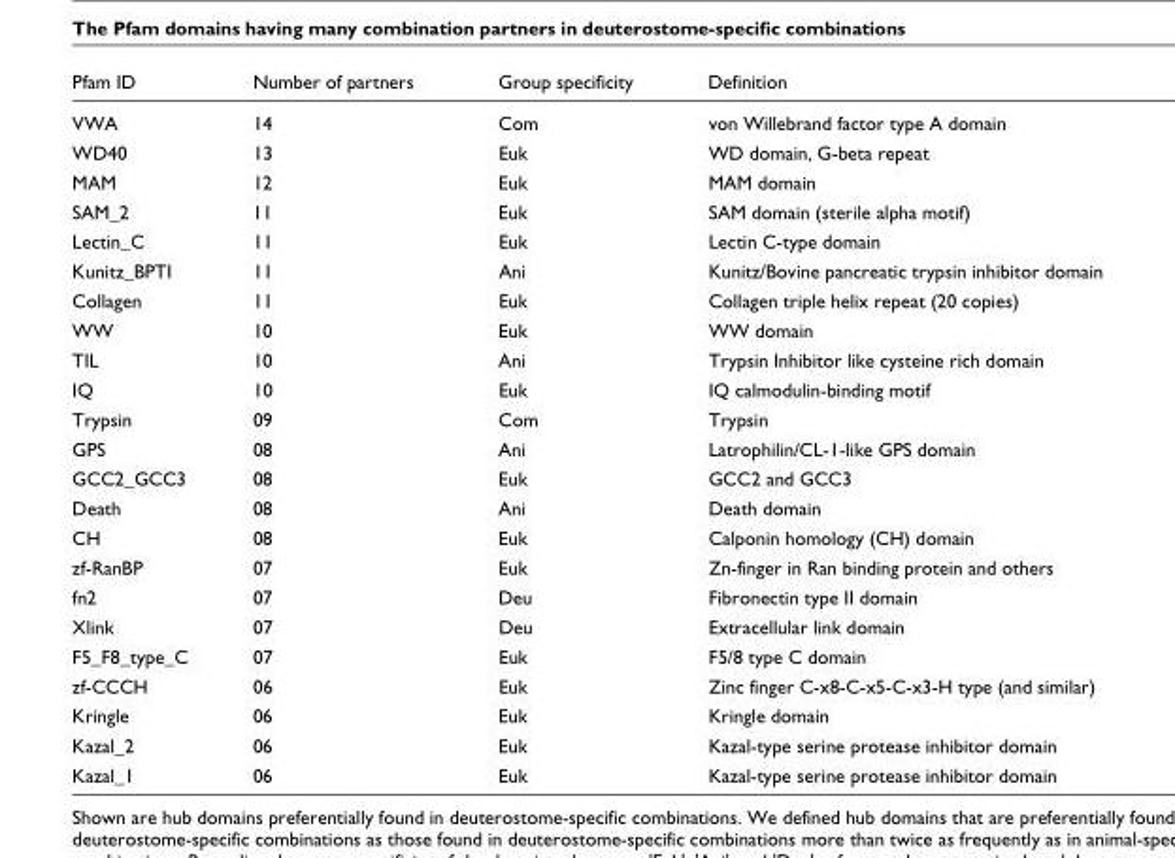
<table><thead><tr><td>Pfam ID</td><td>Number of partners</td><td>Group specificity</td><td>Definition</td></tr></thead><tbody><tr><td>VWA</td><td>14</td><td>Com</td><td>von Willebrand factor type A domain</td></tr><tr><td>WD40</td><td>13</td><td>Euk</td><td>WD domain, G-beta repeat</td></tr><tr><td>MAM</td><td>12</td><td>Euk</td><td>MAM domain</td></tr><tr><td>SAM_2</td><td>11</td><td>Euk</td><td>SAM domain (sterile alpha motif)</td></tr><tr><td>Lectin_C</td><td>11</td><td>Euk</td><td>Lectin C-type domain</td></tr><tr><td>Kunitz_BPTI</td><td>11</td><td>Ani</td><td>Kunitz/Bovine pancreatic trypsin inhibitor domain</td></tr><tr><td>Collagen</td><td>11</td><td>Euk</td><td>Collagen triple helix repeat (20 copies)</td></tr><tr><td>WW</td><td>10</td><td>Euk</td><td>WW domain</td></tr><tr><td>TIL</td><td>10</td><td>Ani</td><td>Trypsin Inhibitor like cysteine rich domain</td></tr><tr><td>IQ</td><td>10</td><td>Euk</td><td>IQ calmodulin-binding motif</td></tr><tr><td>Trypsin</td><td>09</td><td>Com</td><td>Trypsin</td></tr><tr><td>GPS</td><td>08</td><td>Ani</td><td>Latrophilin/CL-1-like GPS domain</td></tr><tr><td>GCC2_GCC3</td><td>08</td><td>Euk</td><td>GCC2 and GCC3</td></tr><tr><td>Death</td><td>08</td><td>Ani</td><td>Death domain</td></tr><tr><td>CH</td><td>08</td><td>Euk</td><td>Calponin homology (CH) domain</td></tr><tr><td>zf-RanBP</td><td>07</td><td>Euk</td><td>Zn-finger in Ran binding protein and others</td></tr><tr><td>fn2</td><td>07</td><td>Deu</td><td>Fibronectin type II domain</td></tr><tr><td>Xlink</td><td>07</td><td>Deu</td><td>Extracellular link domain</td></tr><tr><td>F5_F8_type_C</td><td>07</td><td>Euk</td><td>F5/8 type C domain</td></tr><tr><td>zf-CCCH</td><td>06</td><td>Euk</td><td>Zinc finger C-x8-C-x5-C-x3-H type (and similar)</td></tr><tr><td>Kringle</td><td>06</td><td>Euk</td><td>Kringle domain</td></tr><tr><td>Kazal_2</td><td>06</td><td>Euk</td><td>Kazal-type serine protease inhibitor domain</td></tr><tr><td>Kazal_1</td><td>06</td><td>Euk</td><td>Kazal-type serine protease inhibitor domain</td></tr></tbody></table>